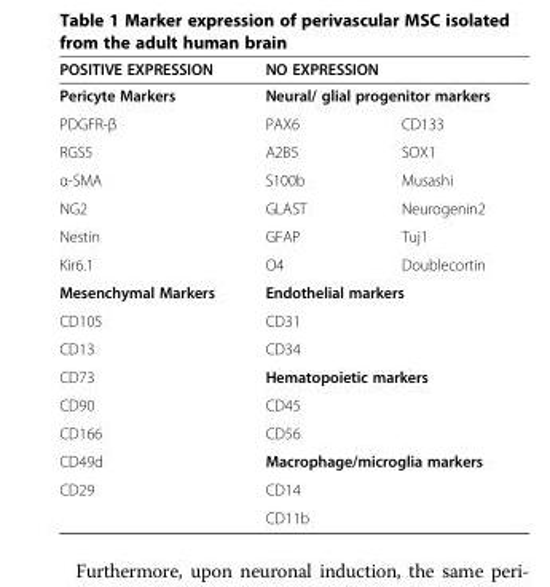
<table><thead><tr><td rowspan="3">POSITIVE EXPRESSION Pericyte Markers PDGFR-β</td><td rowspan="2" colspan="2">NO EXPRESSION Neural/ glial progenitor markers</td></tr><tr></tr><tr><td>PAX6</td><td>CD133</td></tr></thead><tbody><tr><td>RGS5</td><td>A2B5</td><td>SOX1</td></tr><tr><td>α-SMA</td><td>S100b</td><td>Musashi</td></tr><tr><td>NG2</td><td>GLAST</td><td>Neurogenin2</td></tr><tr><td>Nestin</td><td>GFAP</td><td>Tuj1</td></tr><tr><td>Kir6.1</td><td>O4</td><td>Doublecortin</td></tr><tr><td>Mesenchymal Markers</td><td colspan="2">Endothelial markers</td></tr><tr><td>CD105</td><td colspan="2">CD31</td></tr><tr><td>CD13</td><td colspan="2">CD34</td></tr><tr><td>CD73</td><td colspan="2">Hematopoietic markers</td></tr><tr><td>CD90</td><td colspan="2">CD45</td></tr><tr><td>CD166</td><td colspan="2">CD56</td></tr><tr><td>CD49d</td><td colspan="2">Macrophage/microglia markers</td></tr><tr><td rowspan="2">CD29</td><td colspan="2">CD14</td></tr><tr><td colspan="2">CD11b</td></tr></tbody></table>